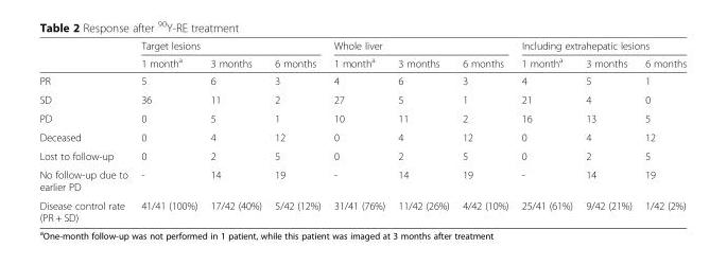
<table><thead><tr><td rowspan="2"></td><td colspan="3">Target lesions</td><td colspan="3">Whole liver</td><td colspan="3">Including extrahepatic lesions</td></tr><tr><td>1 month<sup>a</sup></td><td>3 months</td><td>6 months</td><td>1 month<sup>a</sup></td><td>3 months</td><td>6 months</td><td>1 month<sup>a</sup></td><td>3 months</td><td>6 months</td></tr></thead><tbody><tr><td>PR</td><td>5</td><td>6</td><td>3</td><td>4</td><td>6</td><td>3</td><td>4</td><td>5</td><td>1</td></tr><tr><td>SD</td><td>36</td><td>11</td><td>2</td><td>27</td><td>5</td><td>1</td><td>21</td><td>4</td><td>0</td></tr><tr><td>PD</td><td>0</td><td>5</td><td>1</td><td>10</td><td>11</td><td>2</td><td>16</td><td>13</td><td>5</td></tr><tr><td>Deceased</td><td>0</td><td>4</td><td>12</td><td>0</td><td>4</td><td>12</td><td>0</td><td>4</td><td>12</td></tr><tr><td>Lost to follow-up</td><td>0</td><td>2</td><td>5</td><td>0</td><td>2</td><td>5</td><td>0</td><td>2</td><td>5</td></tr><tr><td>No follow-up due to earlier PD</td><td>-</td><td>14</td><td>19</td><td>-</td><td>14</td><td>19</td><td>-</td><td>14</td><td>19</td></tr><tr><td>Disease control rate (PR + SD)</td><td>41/41 (100%)</td><td>17/42 (40%)</td><td>5/42 (12%)</td><td>31/41 (76%)</td><td>11/42 (26%)</td><td>4/42 (10%)</td><td>25/41 (61%)</td><td>9/42 (21%)</td><td>1/42 (2%)</td></tr></tbody></table>